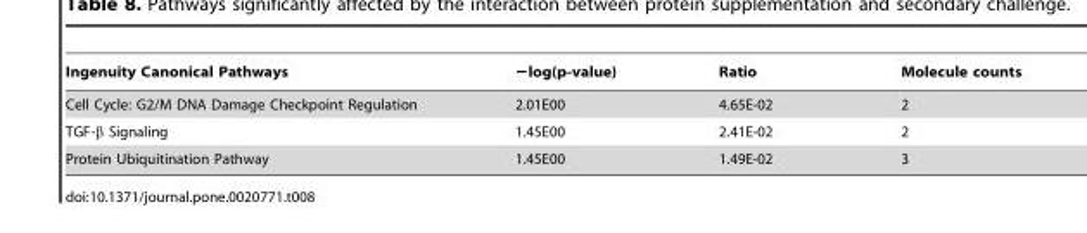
<table><thead><tr><td>Ingenuity Canonical Pathways</td><td>−log(p-value)</td><td>Ratio</td><td>Molecule counts</td></tr></thead><tbody><tr><td>Cell Cycle: G2/M DNA Damage Checkpoint Regulation</td><td>2.01E00</td><td>4.65E-02</td><td>2</td></tr><tr><td>TGF-β Signaling</td><td>1.45E00</td><td>2.41E-02</td><td>2</td></tr><tr><td>Protein Ubiquitination Pathway</td><td>1.45E00</td><td>1.49E-02</td><td>3</td></tr></tbody></table>